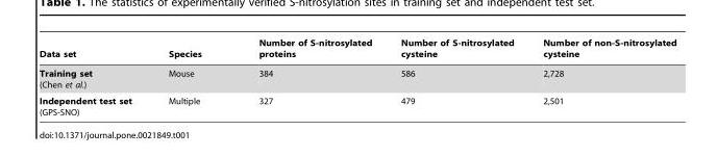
<table><thead><tr><td>Data set</td><td>Species</td><td>Number of S-nitrosylated proteins</td><td>Number of S-nitrosylated cysteine</td><td>Number of non-S-nitrosylated cysteine</td></tr></thead><tbody><tr><td>Training set (Chen et al.)</td><td>Mouse</td><td>384</td><td>586</td><td>2,728</td></tr><tr><td>Independent test set (GPS-SNO)</td><td>Multiple</td><td>327</td><td>479</td><td>2,501</td></tr></tbody></table>